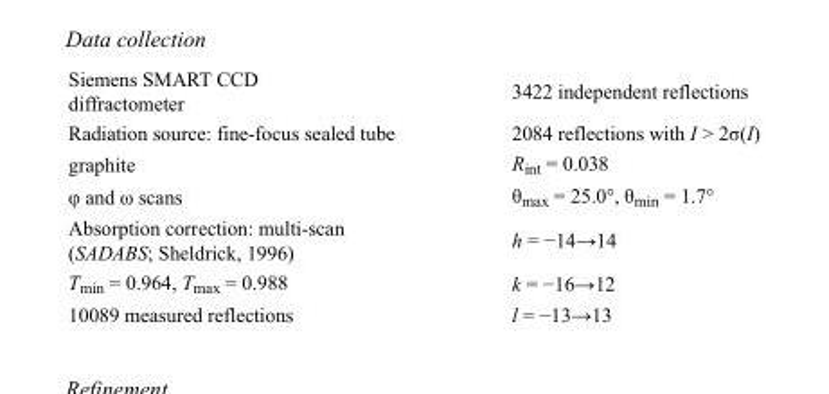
<table><tbody><tr><td>Siemens SMART CCD diffractometer</td><td>3422 independent reflections</td></tr><tr><td>Radiation source: fine-focus sealed tube</td><td>2084 reflections with I &gt; 2σ(I)</td></tr><tr><td>graphite</td><td>R<sub>int</sub> = 0.038</td></tr><tr><td>φ and ω scans</td><td>θ<sub>max</sub> = 25.0°, θ<sub>min</sub> = 1.7°</td></tr><tr><td>Absorption correction: multi-scan (SADABS; Sheldrick, 1996)</td><td>h = −14→14</td></tr><tr><td>T<sub>min</sub> = 0.964, T<sub>max</sub> = 0.988</td><td>k = −16→12</td></tr><tr><td>10089 measured reflections</td><td>l = −13→13</td></tr></tbody></table>